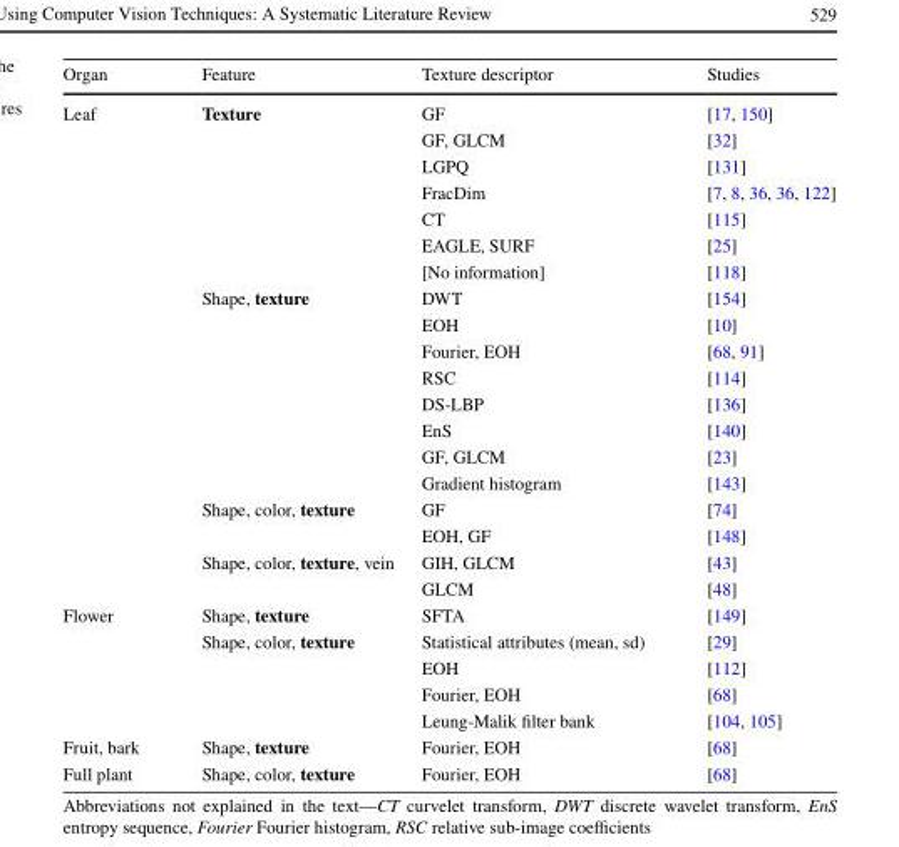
<table><thead><tr><td>Organ</td><td>Feature</td><td>Texture descriptor</td><td>Studies</td></tr></thead><tbody><tr><td rowspan="19">Leaf</td><td>Texture</td><td>GF</td><td>[17, 150]</td></tr><tr><td></td><td>GF, GLCM</td><td>[32]</td></tr><tr><td></td><td>LGPQ</td><td>[131]</td></tr><tr><td></td><td>FracDim</td><td>[7, 8, 36, 36, 122]</td></tr><tr><td></td><td>CT</td><td>[115]</td></tr><tr><td></td><td>EAGLE, SURF</td><td>[25]</td></tr><tr><td></td><td>[No information]</td><td>[118]</td></tr><tr><td>Shape, texture</td><td>DWT</td><td>[154]</td></tr><tr><td></td><td>EOH</td><td>[10]</td></tr><tr><td></td><td>Fourier, EOH</td><td>[68, 91]</td></tr><tr><td></td><td>RSC</td><td>[114]</td></tr><tr><td></td><td>DS-LBP</td><td>[136]</td></tr><tr><td></td><td>EnS</td><td>[140]</td></tr><tr><td></td><td>GF, GLCM</td><td>[23]</td></tr><tr><td></td><td>Gradient histogram</td><td>[143]</td></tr><tr><td>Shape, color, texture</td><td>GF</td><td>[74]</td></tr><tr><td></td><td>EOH, GF</td><td>[148]</td></tr><tr><td>Shape, color, texture, vein</td><td>GIH, GLCM</td><td>[43]</td></tr><tr><td></td><td>GLCM</td><td>[48]</td></tr><tr><td rowspan="5">Flower</td><td>Shape, texture</td><td>SFTA</td><td>[149]</td></tr><tr><td>Shape, color, texture</td><td>Statistical attributes (mean, sd)</td><td>[29]</td></tr><tr><td></td><td>EOH</td><td>[112]</td></tr><tr><td></td><td>Fourier, EOH</td><td>[68]</td></tr><tr><td></td><td>Leung-Malik filter bank</td><td>[104, 105]</td></tr><tr><td>Fruit, bark</td><td>Shape, texture</td><td>Fourier, EOH</td><td>[68]</td></tr><tr><td>Full plant</td><td>Shape, color, texture</td><td>Fourier, EOH</td><td>[68]</td></tr></tbody></table>